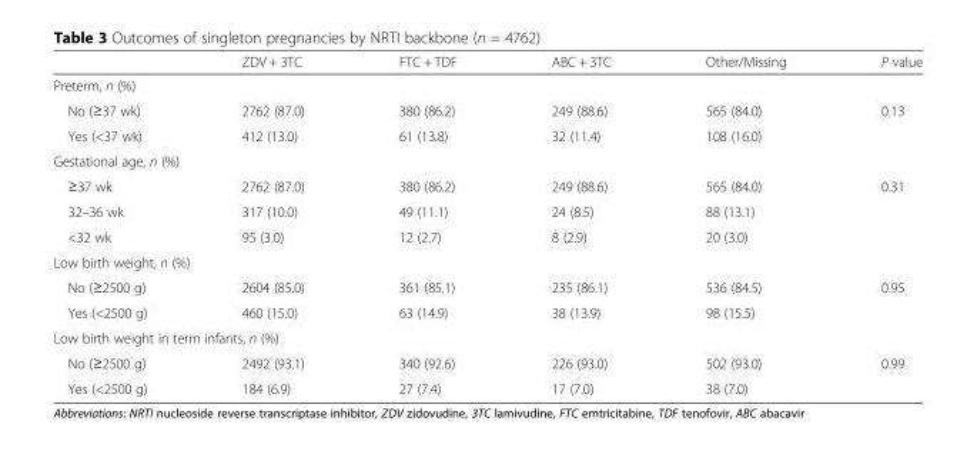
<table><thead><tr><td></td><td>ZDV + 3TC</td><td>FTC + TDF</td><td>ABC + 3TC</td><td>Other/Missing</td><td>P value</td></tr></thead><tbody><tr><td colspan="6">Preterm, n (%)</td></tr><tr><td>No (≥37 wk)</td><td>2762 (87.0)</td><td>380 (86.2)</td><td>249 (88.6)</td><td>565 (84.0)</td><td rowspan="2">0.13</td></tr><tr><td>Yes (&lt;37 wk)</td><td>412 (13.0)</td><td>61 (13.8)</td><td>32 (11.4)</td><td>108 (16.0)</td></tr><tr><td colspan="6">Gestational age, n (%)</td></tr><tr><td>≥37 wk</td><td>2762 (87.0)</td><td>380 (86.2)</td><td>249 (88.6)</td><td>565 (84.0)</td><td rowspan="3">0.31</td></tr><tr><td>32–36 wk</td><td>317 (10.0)</td><td>49 (11.1)</td><td>24 (8.5)</td><td>88 (13.1)</td></tr><tr><td>&lt;32 wk</td><td>95 (3.0)</td><td>12 (2.7)</td><td>8 (2.9)</td><td>20 (3.0)</td></tr><tr><td colspan="6">Low birth weight, n (%)</td></tr><tr><td>No (≥2500 g)</td><td>2604 (85.0)</td><td>361 (85.1)</td><td>235 (86.1)</td><td>536 (84.5)</td><td rowspan="2">0.95</td></tr><tr><td>Yes (&lt;2500 g)</td><td>460 (15.0)</td><td>63 (14.9)</td><td>38 (13.9)</td><td>98 (15.5)</td></tr><tr><td colspan="6">Low birth weight in term infants, n (%)</td></tr><tr><td>No (≥2500 g)</td><td>2492 (93.1)</td><td>340 (92.6)</td><td>226 (93.0)</td><td>502 (93.0)</td><td rowspan="2">0.99</td></tr><tr><td>Yes (&lt;2500 g)</td><td>184 (6.9)</td><td>27 (7.4)</td><td>17 (7.0)</td><td>38 (7.0)</td></tr></tbody></table>